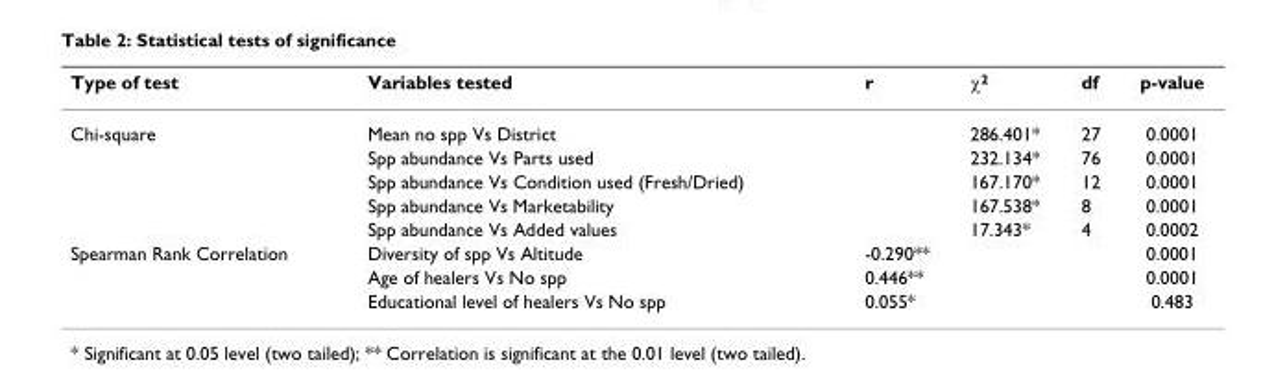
<table><thead><tr><td>Type of test</td><td>Variables tested</td><td>r</td><td>χ<sup>2</sup></td><td>df</td><td>p-value</td></tr></thead><tbody><tr><td rowspan="5">Chi-square</td><td>Mean no spp Vs District</td><td></td><td>286.401*</td><td>27</td><td>0.0001</td></tr><tr><td>Spp abundance Vs Parts used</td><td></td><td>232.134*</td><td>76</td><td>0.0001</td></tr><tr><td>Spp abundance Vs Condition used (Fresh/Dried)</td><td></td><td>167.170*</td><td>12</td><td>0.0001</td></tr><tr><td>Spp abundance Vs Marketability</td><td></td><td>167.538*</td><td>8</td><td>0.0001</td></tr><tr><td>Spp abundance Vs Added values</td><td></td><td>17.343*</td><td>4</td><td>0.0002</td></tr><tr><td rowspan="3">Spearman Rank Correlation</td><td>Diversity of spp Vs Altitude</td><td>-0.290**</td><td></td><td></td><td>0.0001</td></tr><tr><td>Age of healers Vs No spp</td><td>0.446**</td><td></td><td></td><td>0.0001</td></tr><tr><td>Educational level of healers Vs No spp</td><td>0.055*</td><td></td><td></td><td>0.483</td></tr></tbody></table>